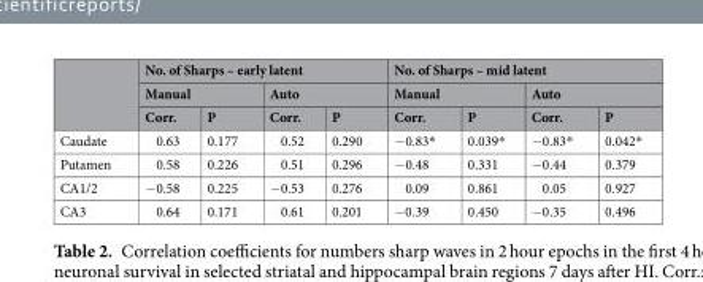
<table><thead><tr><td rowspan="3"></td><td colspan="4">No. of Sharps – early latent</td><td colspan="4">No. of Sharps – mid latent</td></tr><tr><td colspan="2">Manual</td><td colspan="2">Auto</td><td colspan="2">Manual</td><td colspan="2">Auto</td></tr><tr><td>Corr.</td><td>P</td><td>Corr.</td><td>P</td><td>Corr.</td><td>P</td><td>Corr.</td><td>P</td></tr></thead><tbody><tr><td>Caudate</td><td>0.63</td><td>0.177</td><td>0.52</td><td>0.290</td><td>−0.83*</td><td>0.039*</td><td>−0.83*</td><td>0.042*</td></tr><tr><td>Putamen</td><td>0.58</td><td>0.226</td><td>0.51</td><td>0.296</td><td>−0.48</td><td>0.331</td><td>−0.44</td><td>0.379</td></tr><tr><td>CA1/2</td><td>−0.58</td><td>0.225</td><td>−0.53</td><td>0.276</td><td>0.09</td><td>0.861</td><td>0.05</td><td>0.927</td></tr><tr><td>CA3</td><td>0.64</td><td>0.171</td><td>0.61</td><td>0.201</td><td>−0.39</td><td>0.450</td><td>−0.35</td><td>0.496</td></tr></tbody></table>